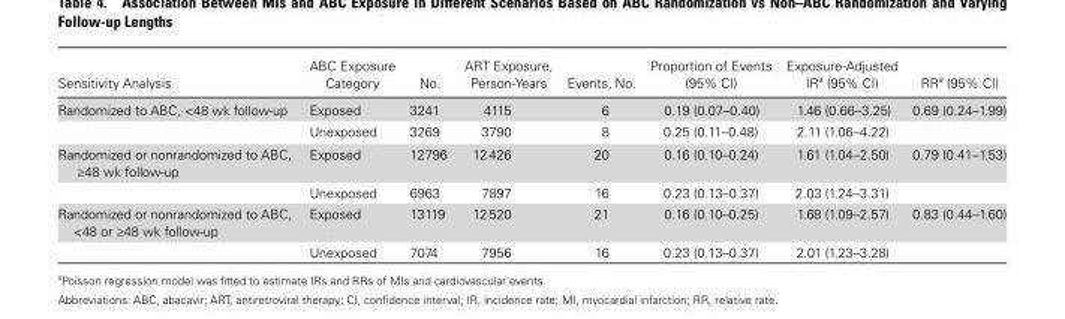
<table><thead><tr><td>Sensitivity Analysis</td><td>ABC Exposure Category</td><td>No.</td><td>ART Exposure, Person-Years</td><td>Events, No.</td><td>Proportion of Events (95% CI)</td><td>Exposure-Adjusted IR<sup>a</sup> (95% CI)</td><td>RR<sup>a</sup> (95% CI)</td></tr></thead><tbody><tr><td rowspan="2">Randomized to ABC, &lt;48 wk follow-up</td><td>Exposed</td><td>3241</td><td>4115</td><td>6</td><td>0.19 (0.07–0.40)</td><td>1.46 (0.66–3.25)</td><td>0.69 (0.24–1.99)</td></tr><tr><td>Unexposed</td><td>3269</td><td>3790</td><td>8</td><td>0.25 (0.11–0.48)</td><td>2.11 (1.06–4.22)</td><td></td></tr><tr><td rowspan="2">Randomized or nonrandomized to ABC, ≥48 wk follow-up</td><td>Exposed</td><td>12 796</td><td>12 426</td><td>20</td><td>0.16 (0.10–0.24)</td><td>1.61 (1.04–2.50)</td><td>0.79 (0.41–1.53)</td></tr><tr><td>Unexposed</td><td>6963</td><td>7897</td><td>16</td><td>0.23 (0.13–0.37)</td><td>2.03 (1.24–3.31)</td><td></td></tr><tr><td rowspan="2">Randomized or nonrandomized to ABC, &lt;48 or ≥48 wk follow-up</td><td>Exposed</td><td>13 119</td><td>12 520</td><td>21</td><td>0.16 (0.10–0.25)</td><td>1.68 (1.09–2.57)</td><td>0.83 (0.44–1.60)</td></tr><tr><td>Unexposed</td><td>7074</td><td>7956</td><td>16</td><td>0.23 (0.13–0.37)</td><td>2.01 (1.23–3.28)</td><td></td></tr></tbody></table>